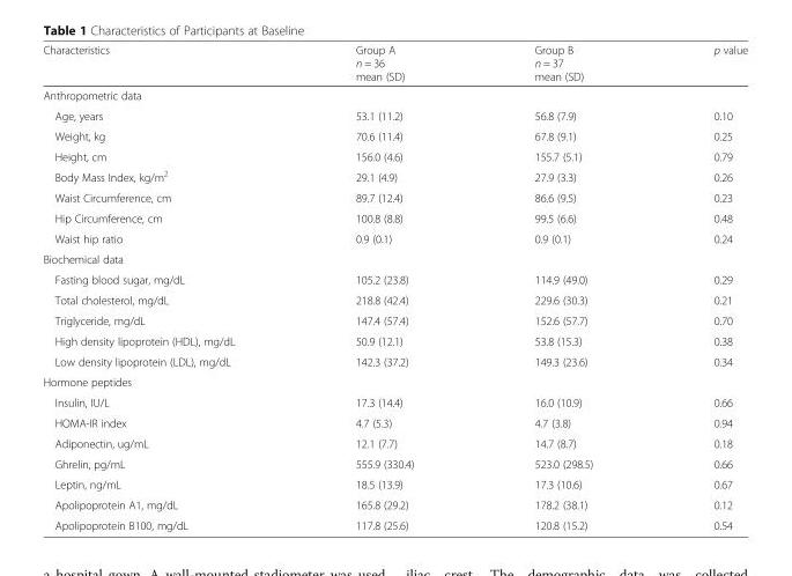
<table><thead><tr><td>Characteristics</td><td>Group A n = 36 mean (SD)</td><td>Group B n = 37 mean (SD)</td><td>p value</td></tr></thead><tbody><tr><td colspan="4">Anthropometric data</td></tr><tr><td>Age, years</td><td>53.1 (11.2)</td><td>56.8 (7.9)</td><td>0.10</td></tr><tr><td>Weight, kg</td><td>70.6 (11.4)</td><td>67.8 (9.1)</td><td>0.25</td></tr><tr><td>Height, cm</td><td>156.0 (4.6)</td><td>155.7 (5.1)</td><td>0.79</td></tr><tr><td>Body Mass Index, kg/m<sup>2</sup></td><td>29.1 (4.9)</td><td>27.9 (3.3)</td><td>0.26</td></tr><tr><td>Waist Circumference, cm</td><td>89.7 (12.4)</td><td>86.6 (9.5)</td><td>0.23</td></tr><tr><td>Hip Circumference, cm</td><td>100.8 (8.8)</td><td>99.5 (6.6)</td><td>0.48</td></tr><tr><td>Waist hip ratio</td><td>0.9 (0.1)</td><td>0.9 (0.1)</td><td>0.24</td></tr><tr><td colspan="4">Biochemical data</td></tr><tr><td>Fasting blood sugar, mg/dL</td><td>105.2 (23.8)</td><td>114.9 (49.0)</td><td>0.29</td></tr><tr><td>Total cholesterol, mg/dL</td><td>218.8 (42.4)</td><td>229.6 (30.3)</td><td>0.21</td></tr><tr><td>Triglyceride, mg/dL</td><td>147.4 (57.4)</td><td>152.6 (57.7)</td><td>0.70</td></tr><tr><td>High density lipoprotein (HDL), mg/dL</td><td>50.9 (12.1)</td><td>53.8 (15.3)</td><td>0.38</td></tr><tr><td>Low density lipoprotein (LDL), mg/dL</td><td>142.3 (37.2)</td><td>149.3 (23.6)</td><td>0.34</td></tr><tr><td colspan="4">Hormone peptides</td></tr><tr><td>Insulin, IU/L</td><td>17.3 (14.4)</td><td>16.0 (10.9)</td><td>0.66</td></tr><tr><td>HOMA-IR index</td><td>4.7 (5.3)</td><td>4.7 (3.8)</td><td>0.94</td></tr><tr><td>Adiponectin, ug/mL</td><td>12.1 (7.7)</td><td>14.7 (8.7)</td><td>0.18</td></tr><tr><td>Ghrelin, pg/mL</td><td>555.9 (330.4)</td><td>523.0 (298.5)</td><td>0.66</td></tr><tr><td>Leptin, ng/mL</td><td>18.5 (13.9)</td><td>17.3 (10.6)</td><td>0.67</td></tr><tr><td>Apolipoprotein A1, mg/dL</td><td>165.8 (29.2)</td><td>178.2 (38.1)</td><td>0.12</td></tr><tr><td>Apolipoprotein B100, mg/dL</td><td>117.8 (25.6)</td><td>120.8 (15.2)</td><td>0.54</td></tr></tbody></table>